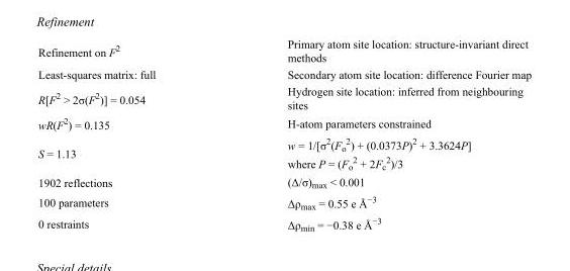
<table><tbody><tr><td>Refinement on F<sup>2</sup></td><td>Primary atom site location: structure-invariant direct methods</td></tr><tr><td>Least-squares matrix: full</td><td>Secondary atom site location: difference Fourier map</td></tr><tr><td>R[F<sup>2</sup> &gt; 2σ(F<sup>2</sup>)] = 0.054</td><td>Hydrogen site location: inferred from neighbouring sites</td></tr><tr><td>wR(F<sup>2</sup>) = 0.135</td><td>H-atom parameters constrained</td></tr><tr><td>S = 1.13</td><td>w = 1/[σ<sup>2</sup>(F<sub>o</sub> <sup>2</sup>) + (0.0373P)<sup>2</sup> + 3.3624P] where P = (F<sub>o</sub> <sup>2</sup> + 2F<sub>c</sub> <sup>2</sup>)/3</td></tr><tr><td>1902 reflections</td><td>(Δ/σ)<sub>max</sub> &lt; 0.001</td></tr><tr><td>100 parameters</td><td>Δρ<sub>max</sub> = 0.55 e Å<sup>−3</sup></td></tr><tr><td>0 restraints</td><td>Δρ<sub>min</sub> = −0.38 e Å<sup>−3</sup></td></tr></tbody></table>